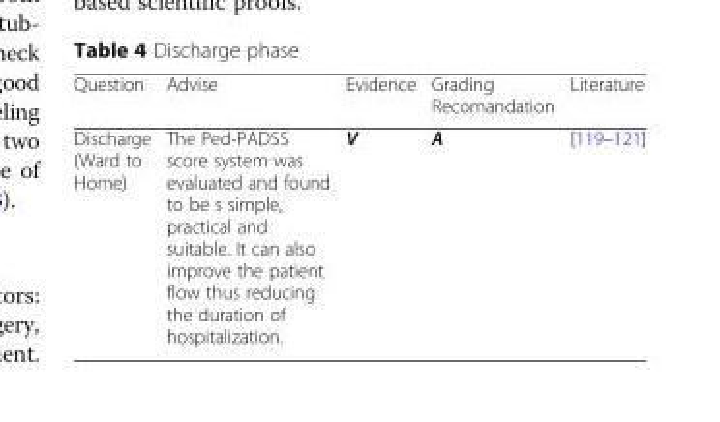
<table><thead><tr><td>Question</td><td>Advise</td><td>Evidence</td><td>Grading Recomandation</td><td>Literature</td></tr></thead><tbody><tr><td>Discharge (Ward to Home)</td><td>The Ped-PADSS score system was evaluated and found to be s simple, practical and suitable. It can also improve the patient flow thus reducing the duration of hospitalization.</td><td>V</td><td>A</td><td>[119–121]</td></tr></tbody></table>